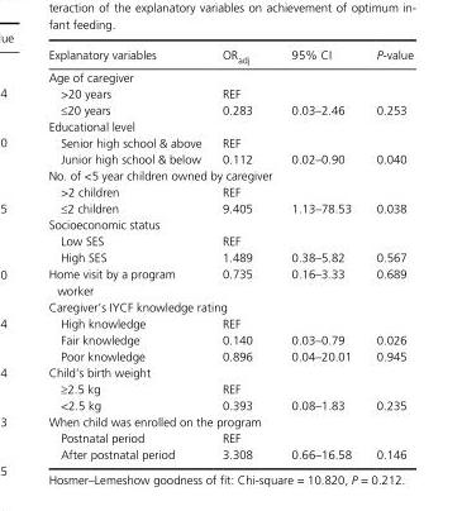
<table><thead><tr><td>Explanatory variables</td><td>OR<sub>adj</sub></td><td>95% CI</td><td>P- value</td></tr></thead><tbody><tr><td colspan="4">Age of caregiver</td></tr><tr><td>&gt;20 years</td><td>REF</td><td></td><td></td></tr><tr><td>≤20 years</td><td>0.283</td><td>0.03–2.46</td><td>0.253</td></tr><tr><td colspan="4">Educational level</td></tr><tr><td>Senior high school &amp; above</td><td>REF</td><td></td><td></td></tr><tr><td>Junior high school &amp; below</td><td>0.112</td><td>0.02–0.90</td><td>0.040</td></tr><tr><td colspan="4">No. of &lt;5 year children owned by caregiver</td></tr><tr><td>&gt;2 children</td><td>REF</td><td></td><td></td></tr><tr><td>≤2 children</td><td>9.405</td><td>1.13–78.53</td><td>0.038</td></tr><tr><td colspan="4">Socioeconomic status</td></tr><tr><td>Low SES</td><td>REF</td><td></td><td></td></tr><tr><td>High SES</td><td>1.489</td><td>0.38–5.82</td><td>0.567</td></tr><tr><td>Home visit by a program worker</td><td>0.735</td><td>0.16–3.33</td><td>0.689</td></tr><tr><td colspan="4">Caregiver’s IYCF knowledge rating</td></tr><tr><td>High knowledge</td><td>REF</td><td></td><td></td></tr><tr><td>Fair knowledge</td><td>0.140</td><td>0.03–0.79</td><td>0.026</td></tr><tr><td>Poor knowledge</td><td>0.896</td><td>0.04–20.01</td><td>0.945</td></tr><tr><td colspan="4">Child’s birth weight</td></tr><tr><td>≥2.5 kg</td><td>REF</td><td></td><td></td></tr><tr><td>&lt;2.5 kg</td><td>0.393</td><td>0.08–1.83</td><td>0.235</td></tr><tr><td colspan="4">When child was enrolled on the program</td></tr><tr><td>Postnatal period</td><td>REF</td><td></td><td></td></tr><tr><td>After postnatal period</td><td>3.308</td><td>0.66–16.58</td><td>0.146</td></tr></tbody></table>